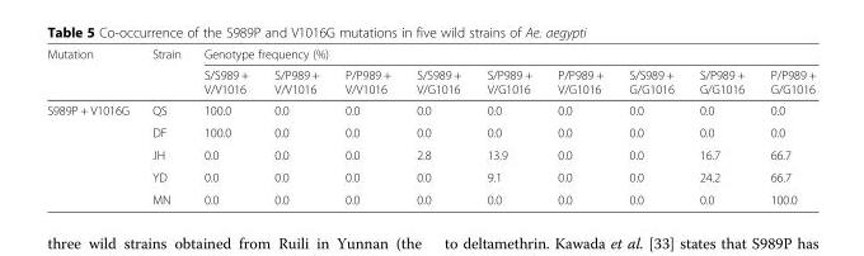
<table><thead><tr><td rowspan="2">Mutation</td><td rowspan="2">Strain</td><td colspan="9">Genotype frequency (%)</td></tr><tr><td>S/S989 + V/V1016</td><td>S/P989 + V/V1016</td><td>P/P989 + V/V1016</td><td>S/S989 + V/G1016</td><td>S/P989 + V/G1016</td><td>P/P989 + V/G1016</td><td>S/S989 + G/G1016</td><td>S/P989 + G/G1016</td><td>P/P989 + G/G1016</td></tr></thead><tbody><tr><td rowspan="5">S989P + V1016G</td><td>QS</td><td>100.0</td><td>0.0</td><td>0.0</td><td>0.0</td><td>0.0</td><td>0.0</td><td>0.0</td><td>0.0</td><td>0.0</td></tr><tr><td>DF</td><td>100.0</td><td>0.0</td><td>0.0</td><td>0.0</td><td>0.0</td><td>0.0</td><td>0.0</td><td>0.0</td><td>0.0</td></tr><tr><td>JH</td><td>0.0</td><td>0.0</td><td>0.0</td><td>2.8</td><td>13.9</td><td>0.0</td><td>0.0</td><td>16.7</td><td>66.7</td></tr><tr><td>YD</td><td>0.0</td><td>0.0</td><td>0.0</td><td>0.0</td><td>9.1</td><td>0.0</td><td>0.0</td><td>24.2</td><td>66.7</td></tr><tr><td>MN</td><td>0.0</td><td>0.0</td><td>0.0</td><td>0.0</td><td>0.0</td><td>0.0</td><td>0.0</td><td>0.0</td><td>100.0</td></tr></tbody></table>